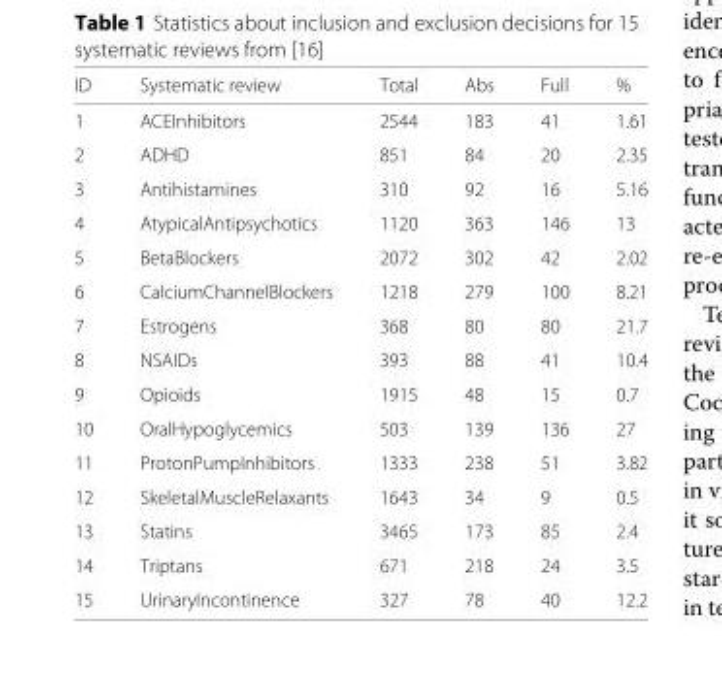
<table><thead><tr><td>ID</td><td>Systematic review</td><td>Total</td><td>Abs</td><td>Full</td><td>%</td></tr></thead><tbody><tr><td>1</td><td>ACEInhibitors</td><td>2544</td><td>183</td><td>41</td><td>1.61</td></tr><tr><td>2</td><td>ADHD</td><td>851</td><td>84</td><td>20</td><td>2.35</td></tr><tr><td>3</td><td>Antihistamines</td><td>310</td><td>92</td><td>16</td><td>5.16</td></tr><tr><td>4</td><td>AtypicalAntipsychotics</td><td>1120</td><td>363</td><td>146</td><td>13</td></tr><tr><td>5</td><td>BetaBlockers</td><td>2072</td><td>302</td><td>42</td><td>2.02</td></tr><tr><td>6</td><td>CalciumChannelBlockers</td><td>1218</td><td>279</td><td>100</td><td>8.21</td></tr><tr><td>7</td><td>Estrogens</td><td>368</td><td>80</td><td>80</td><td>21.7</td></tr><tr><td>8</td><td>NSAIDs</td><td>393</td><td>88</td><td>41</td><td>10.4</td></tr><tr><td>9</td><td>Opioids</td><td>1915</td><td>48</td><td>15</td><td>0.7</td></tr><tr><td>10</td><td>OralHypoglycemics</td><td>503</td><td>139</td><td>136</td><td>27</td></tr><tr><td>11</td><td>ProtonPumpInhibitors</td><td>1333</td><td>238</td><td>51</td><td>3.82</td></tr><tr><td>12</td><td>SkeletalMuscleRelaxants</td><td>1643</td><td>34</td><td>9</td><td>0.5</td></tr><tr><td>13</td><td>Statins</td><td>3465</td><td>173</td><td>85</td><td>2.4</td></tr><tr><td>14</td><td>Triptans</td><td>671</td><td>218</td><td>24</td><td>3.5</td></tr><tr><td>15</td><td>UrinaryIncontinence</td><td>327</td><td>78</td><td>40</td><td>12.2</td></tr></tbody></table>